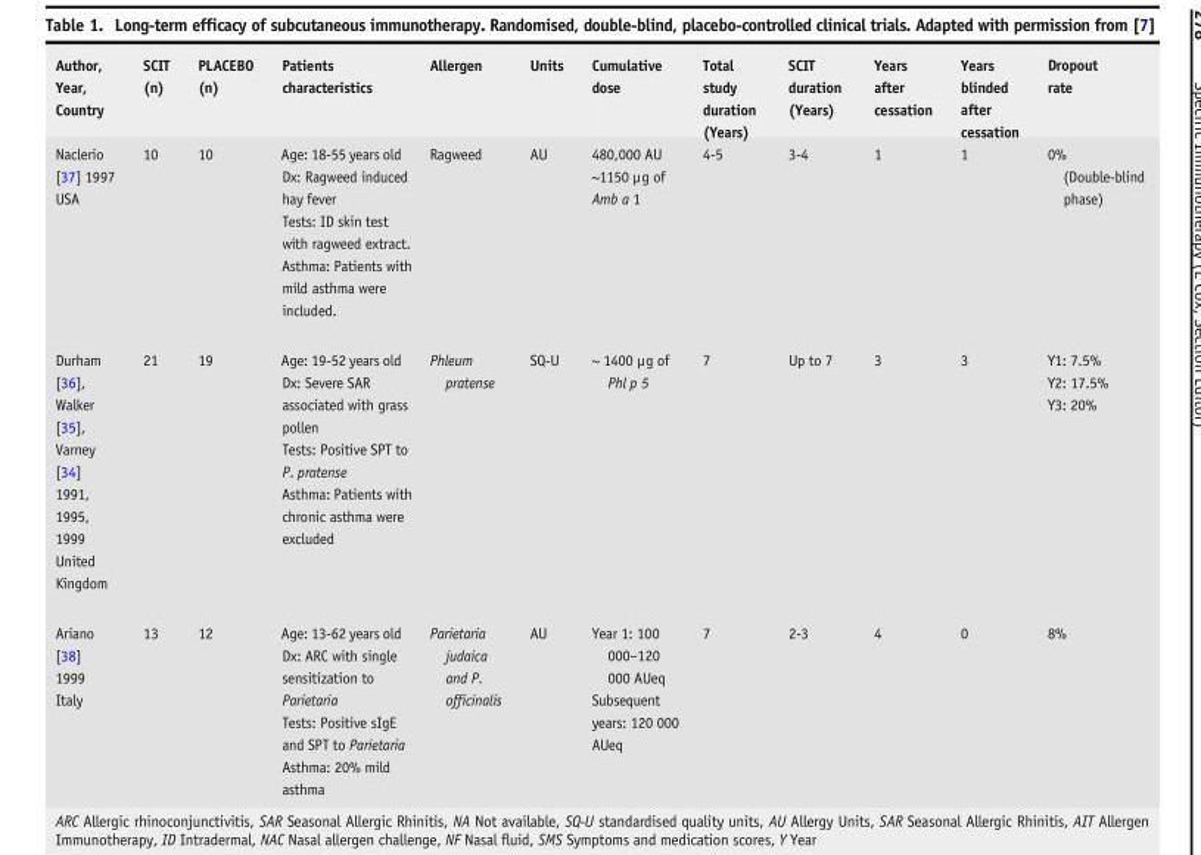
<table><thead><tr><td>Author, Year, Country</td><td>SCIT (n)</td><td>PLACEBO (n)</td><td>Patients characteristics</td><td>Allergen</td><td>Units</td><td>Cumulative dose</td><td>Total study duration (Years)</td><td>SCIT duration (Years)</td><td>Years after cessation</td><td>Years blinded after cessation</td><td>Dropout rate</td></tr></thead><tbody><tr><td>Naclerio [37] 1997 USA</td><td>10</td><td>10</td><td>Age: 18-55 years old Dx: Ragweed induced hay fever Tests: ID skin test with ragweed extract. Asthma: Patients with mild asthma were included.</td><td>Ragweed</td><td>AU</td><td>480,000 AU ~1150 μg of Amb a 1</td><td>4-5</td><td>3-4</td><td>1</td><td>1</td><td>0% (Double-blind phase)</td></tr><tr><td>Durham [36], Walker [35], Varney [34] 1991, 1995, 1999 United Kingdom</td><td>21</td><td>19</td><td>Age: 19-52 years old Dx: Severe SAR associated with grass pollen Tests: Positive SPT to P. pratense Asthma: Patients with chronic asthma were excluded</td><td>Phleum pratense</td><td>SQ-U</td><td>~ 1400 μg of Phl p 5</td><td>7</td><td>Up to 7</td><td>3</td><td>3</td><td>Y1: 7.5% Y2: 17.5% Y3: 20%</td></tr><tr><td>Ariano [38] 1999 Italy</td><td>13</td><td>12</td><td>Age: 13-62 years old Dx: ARC with single sensitization to Parietaria Tests: Positive sIgE and SPT to Parietaria Asthma: 20% mild asthma</td><td>Parietaria judaica and P. officinalis</td><td>AU</td><td>Year 1: 100 000–120 000 AUeq Subsequent years: 120 000 AUeq</td><td>7</td><td>2-3</td><td>4</td><td>0</td><td>8%</td></tr></tbody></table>